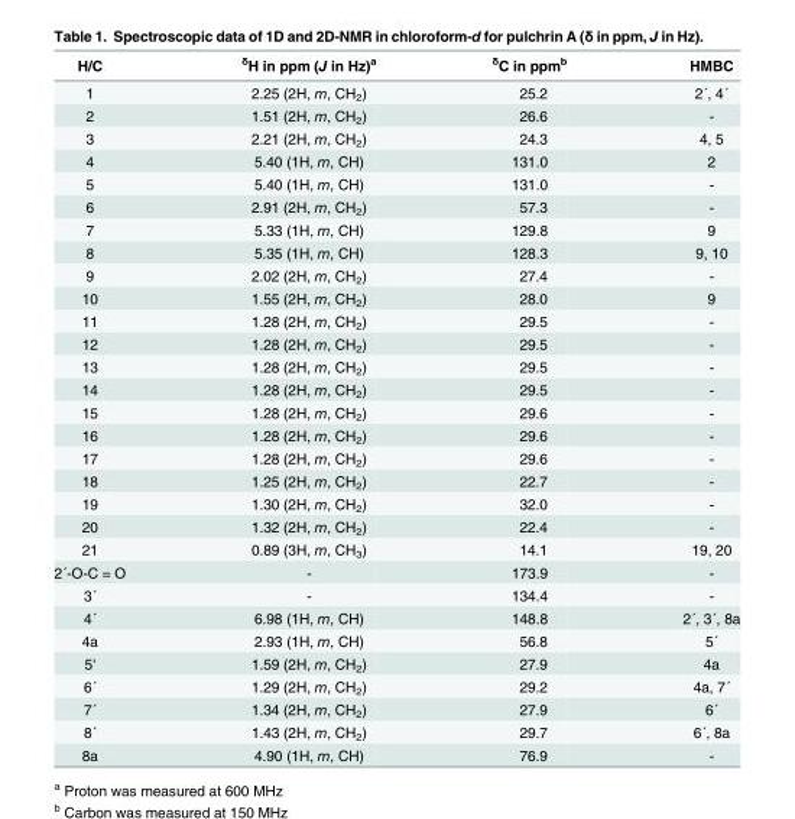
<table><thead><tr><td>H/C</td><td><sup>δ</sup>H in ppm (J in Hz)<sup>a</sup></td><td><sup>δ</sup>C in ppm<sup>b</sup></td><td>HMBC</td></tr></thead><tbody><tr><td>1</td><td>2.25 (2H, m, CH<sub>2</sub>)</td><td>25.2</td><td>2´, 4´</td></tr><tr><td>2</td><td>1.51 (2H, m, CH<sub>2</sub>)</td><td>26.6</td><td>-</td></tr><tr><td>3</td><td>2.21 (2H, m, CH<sub>2</sub>)</td><td>24.3</td><td>4, 5</td></tr><tr><td>4</td><td>5.40 (1H, m, CH)</td><td>131.0</td><td>2</td></tr><tr><td>5</td><td>5.40 (1H, m, CH)</td><td>131.0</td><td>-</td></tr><tr><td>6</td><td>2.91 (2H, m, CH<sub>2</sub>)</td><td>57.3</td><td>-</td></tr><tr><td>7</td><td>5.33 (1H, m, CH)</td><td>129.8</td><td>9</td></tr><tr><td>8</td><td>5.35 (1H, m, CH)</td><td>128.3</td><td>9, 10</td></tr><tr><td>9</td><td>2.02 (2H, m, CH<sub>2</sub>)</td><td>27.4</td><td>-</td></tr><tr><td>10</td><td>1.55 (2H, m, CH<sub>2</sub>)</td><td>28.0</td><td>9</td></tr><tr><td>11</td><td>1.28 (2H, m, CH<sub>2</sub>)</td><td>29.5</td><td>-</td></tr><tr><td>12</td><td>1.28 (2H, m, CH<sub>2</sub>)</td><td>29.5</td><td>-</td></tr><tr><td>13</td><td>1.28 (2H, m, CH<sub>2</sub>)</td><td>29.5</td><td>-</td></tr><tr><td>14</td><td>1.28 (2H, m, CH<sub>2</sub>)</td><td>29.5</td><td>-</td></tr><tr><td>15</td><td>1.28 (2H, m, CH<sub>2</sub>)</td><td>29.6</td><td>-</td></tr><tr><td>16</td><td>1.28 (2H, m, CH<sub>2</sub>)</td><td>29.6</td><td>-</td></tr><tr><td>17</td><td>1.28 (2H, m, CH<sub>2</sub>)</td><td>29.6</td><td>-</td></tr><tr><td>18</td><td>1.25 (2H, m, CH<sub>2</sub>)</td><td>22.7</td><td>-</td></tr><tr><td>19</td><td>1.30 (2H, m, CH<sub>2</sub>)</td><td>32.0</td><td>-</td></tr><tr><td>20</td><td>1.32 (2H, m, CH<sub>2</sub>)</td><td>22.4</td><td>-</td></tr><tr><td>21</td><td>0.89 (3H, m, CH<sub>3</sub>)</td><td>14.1</td><td>19, 20</td></tr><tr><td>2´-O-C = O</td><td>-</td><td>173.9</td><td>-</td></tr><tr><td>3´</td><td>-</td><td>134.4</td><td>-</td></tr><tr><td>4´</td><td>6.98 (1H, m, CH)</td><td>148.8</td><td>2´, 3´, 8a</td></tr><tr><td>4a</td><td>2.93 (1H, m, CH)</td><td>56.8</td><td>5´</td></tr><tr><td>5&#x27;</td><td>1.59 (2H, m, CH<sub>2</sub>)</td><td>27.9</td><td>4a</td></tr><tr><td>6´</td><td>1.29 (2H, m, CH<sub>2</sub>)</td><td>29.2</td><td>4a, 7´</td></tr><tr><td>7´</td><td>1.34 (2H, m, CH<sub>2</sub>)</td><td>27.9</td><td>6´</td></tr><tr><td>8´</td><td>1.43 (2H, m, CH<sub>2</sub>)</td><td>29.7</td><td>6´, 8a</td></tr><tr><td>8a</td><td>4.90 (1H, m, CH)</td><td>76.9</td><td>-</td></tr></tbody></table>